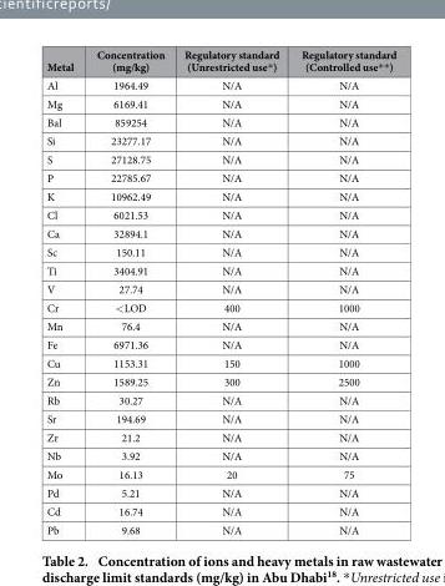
<table><thead><tr><td>Metal</td><td>Concentration (mg/kg)</td><td>Regulatory standard (Unrestricted use*)</td><td>Regulatory standard (Controlled use**)</td></tr></thead><tbody><tr><td>Al</td><td>1964.49</td><td>N/A</td><td>N/A</td></tr><tr><td>Mg</td><td>6169.41</td><td>N/A</td><td>N/A</td></tr><tr><td>Bal</td><td>859254</td><td>N/A</td><td>N/A</td></tr><tr><td>Si</td><td>23277.17</td><td>N/A</td><td>N/A</td></tr><tr><td>S</td><td>27128.75</td><td>N/A</td><td>N/A</td></tr><tr><td>P</td><td>22785.67</td><td>N/A</td><td>N/A</td></tr><tr><td>K</td><td>10962.49</td><td>N/A</td><td>N/A</td></tr><tr><td>Cl</td><td>6021.53</td><td>N/A</td><td>N/A</td></tr><tr><td>Ca</td><td>32894.1</td><td>N/A</td><td>N/A</td></tr><tr><td>Sc</td><td>150.11</td><td>N/A</td><td>N/A</td></tr><tr><td>Ti</td><td>3404.91</td><td>N/A</td><td>N/A</td></tr><tr><td>V</td><td>27.74</td><td>N/A</td><td>N/A</td></tr><tr><td>Cr</td><td>&lt; LOD</td><td>400</td><td>1000</td></tr><tr><td>Mn</td><td>76.4</td><td>N/A</td><td>N/A</td></tr><tr><td>Fe</td><td>6971.36</td><td>N/A</td><td>N/A</td></tr><tr><td>Cu</td><td>1153.31</td><td>150</td><td>1000</td></tr><tr><td>Zn</td><td>1589.25</td><td>300</td><td>2500</td></tr><tr><td>Rb</td><td>30.27</td><td>N/A</td><td>N/A</td></tr><tr><td>Sr</td><td>194.69</td><td>N/A</td><td>N/A</td></tr><tr><td>Zr</td><td>21.2</td><td>N/A</td><td>N/A</td></tr><tr><td>Nb</td><td>3.92</td><td>N/A</td><td>N/A</td></tr><tr><td>Mo</td><td>16.13</td><td>20</td><td>75</td></tr><tr><td>Pd</td><td>5.21</td><td>N/A</td><td>N/A</td></tr><tr><td>Cd</td><td>16.74</td><td>N/A</td><td>N/A</td></tr><tr><td>Pb</td><td>9.68</td><td>N/A</td><td>N/A</td></tr></tbody></table>